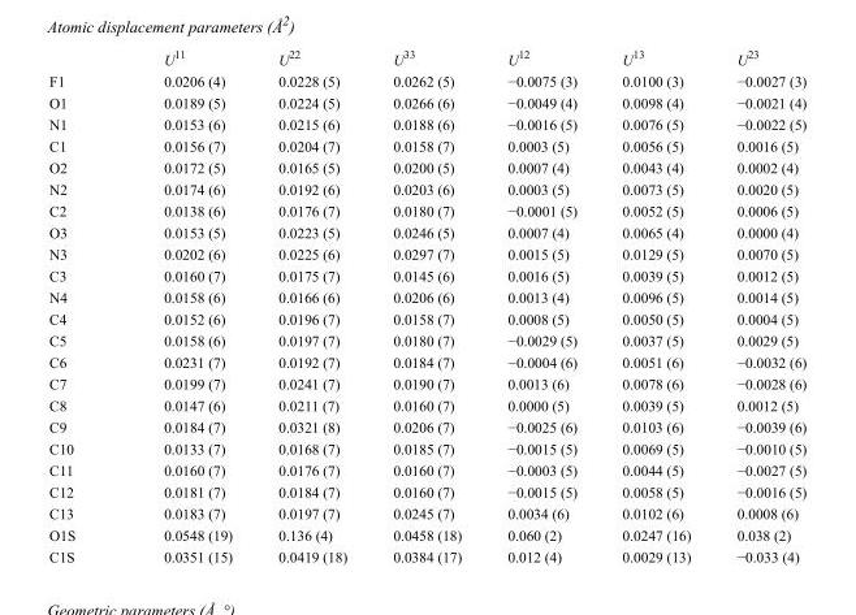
<table><thead><tr><td></td><td>U<sup>11</sup></td><td>U<sup>22</sup></td><td>U<sup>33</sup></td><td>U<sup>12</sup></td><td>U<sup>13</sup></td><td>U<sup>23</sup></td></tr></thead><tbody><tr><td>F1</td><td>0.0206 (4)</td><td>0.0228 (5)</td><td>0.0262 (5)</td><td>−0.0075 (3)</td><td>0.0100 (3)</td><td>−0.0027 (3)</td></tr><tr><td>O1</td><td>0.0189 (5)</td><td>0.0224 (5)</td><td>0.0266 (6)</td><td>−0.0049 (4)</td><td>0.0098 (4)</td><td>−0.0021 (4)</td></tr><tr><td>N1</td><td>0.0153 (6)</td><td>0.0215 (6)</td><td>0.0188 (6)</td><td>−0.0016 (5)</td><td>0.0076 (5)</td><td>−0.0022 (5)</td></tr><tr><td>C1</td><td>0.0156 (7)</td><td>0.0204 (7)</td><td>0.0158 (7)</td><td>0.0003 (5)</td><td>0.0056 (5)</td><td>0.0016 (5)</td></tr><tr><td>O2</td><td>0.0172 (5)</td><td>0.0165 (5)</td><td>0.0200 (5)</td><td>0.0007 (4)</td><td>0.0043 (4)</td><td>0.0002 (4)</td></tr><tr><td>N2</td><td>0.0174 (6)</td><td>0.0192 (6)</td><td>0.0203 (6)</td><td>0.0003 (5)</td><td>0.0073 (5)</td><td>0.0020 (5)</td></tr><tr><td>C2</td><td>0.0138 (6)</td><td>0.0176 (7)</td><td>0.0180 (7)</td><td>−0.0001 (5)</td><td>0.0052 (5)</td><td>0.0006 (5)</td></tr><tr><td>O3</td><td>0.0153 (5)</td><td>0.0223 (5)</td><td>0.0246 (5)</td><td>0.0007 (4)</td><td>0.0065 (4)</td><td>0.0000 (4)</td></tr><tr><td>N3</td><td>0.0202 (6)</td><td>0.0225 (6)</td><td>0.0297 (7)</td><td>0.0015 (5)</td><td>0.0129 (5)</td><td>0.0070 (5)</td></tr><tr><td>C3</td><td>0.0160 (7)</td><td>0.0175 (7)</td><td>0.0145 (6)</td><td>0.0016 (5)</td><td>0.0039 (5)</td><td>0.0012 (5)</td></tr><tr><td>N4</td><td>0.0158 (6)</td><td>0.0166 (6)</td><td>0.0206 (6)</td><td>0.0013 (4)</td><td>0.0096 (5)</td><td>0.0014 (5)</td></tr><tr><td>C4</td><td>0.0152 (6)</td><td>0.0196 (7)</td><td>0.0158 (7)</td><td>0.0008 (5)</td><td>0.0050 (5)</td><td>0.0004 (5)</td></tr><tr><td>C5</td><td>0.0158 (6)</td><td>0.0197 (7)</td><td>0.0180 (7)</td><td>−0.0029 (5)</td><td>0.0037 (5)</td><td>0.0029 (5)</td></tr><tr><td>C6</td><td>0.0231 (7)</td><td>0.0192 (7)</td><td>0.0184 (7)</td><td>−0.0004 (6)</td><td>0.0051 (6)</td><td>−0.0032 (6)</td></tr><tr><td>C7</td><td>0.0199 (7)</td><td>0.0241 (7)</td><td>0.0190 (7)</td><td>0.0013 (6)</td><td>0.0078 (6)</td><td>−0.0028 (6)</td></tr><tr><td>C8</td><td>0.0147 (6)</td><td>0.0211 (7)</td><td>0.0160 (7)</td><td>0.0000 (5)</td><td>0.0039 (5)</td><td>0.0012 (5)</td></tr><tr><td>C9</td><td>0.0184 (7)</td><td>0.0321 (8)</td><td>0.0206 (7)</td><td>−0.0025 (6)</td><td>0.0103 (6)</td><td>−0.0039 (6)</td></tr><tr><td>C10</td><td>0.0133 (7)</td><td>0.0168 (7)</td><td>0.0185 (7)</td><td>−0.0015 (5)</td><td>0.0069 (5)</td><td>−0.0010 (5)</td></tr><tr><td>C11</td><td>0.0160 (7)</td><td>0.0176 (7)</td><td>0.0160 (7)</td><td>−0.0003 (5)</td><td>0.0044 (5)</td><td>−0.0027 (5)</td></tr><tr><td>C12</td><td>0.0181 (7)</td><td>0.0184 (7)</td><td>0.0160 (7)</td><td>−0.0015 (5)</td><td>0.0058 (5)</td><td>−0.0016 (5)</td></tr><tr><td>C13</td><td>0.0183 (7)</td><td>0.0197 (7)</td><td>0.0245 (7)</td><td>0.0034 (6)</td><td>0.0102 (6)</td><td>0.0008 (6)</td></tr><tr><td>O1S</td><td>0.0548 (19)</td><td>0.136 (4)</td><td>0.0458 (18)</td><td>0.060 (2)</td><td>0.0247 (16)</td><td>0.038 (2)</td></tr><tr><td>C1S</td><td>0.0351 (15)</td><td>0.0419 (18)</td><td>0.0384 (17)</td><td>0.012 (4)</td><td>0.0029 (13)</td><td>−0.033 (4)</td></tr></tbody></table>